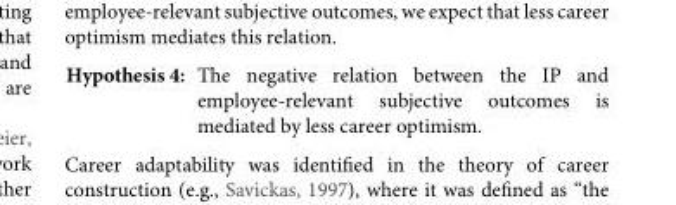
<table><tbody><tr><td>Hypothesis 4:</td><td>The negative relation between the IP and employee-relevant subjective outcomes is mediated by less career optimism.</td></tr></tbody></table>